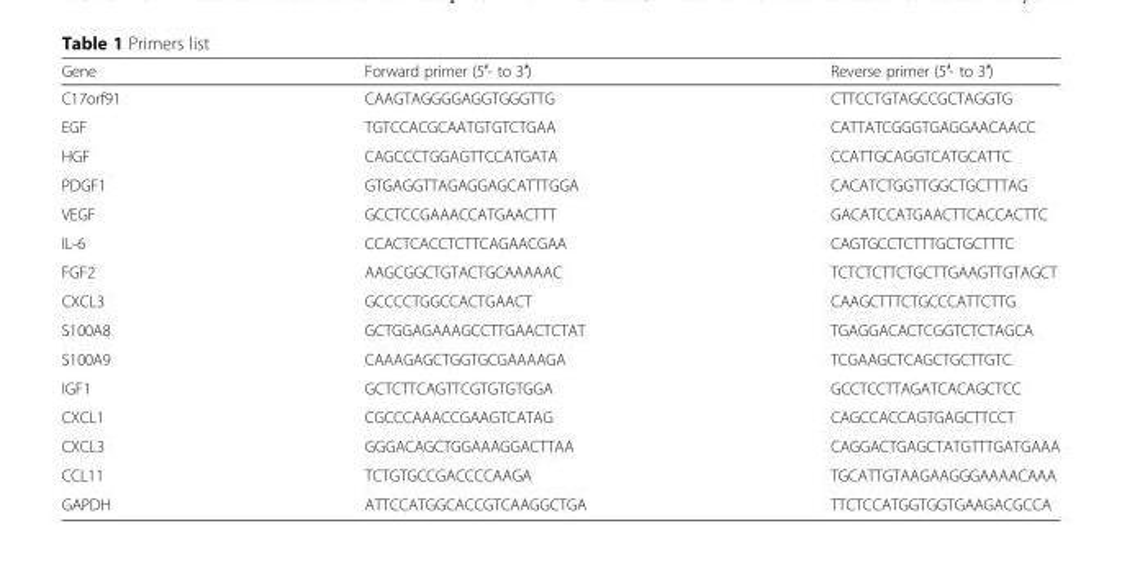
<table><thead><tr><td>Gene</td><td>Forward primer (5′- to 3′)</td><td>Reverse primer (5′- to 3′)</td></tr></thead><tbody><tr><td>C17orf91</td><td>CAAGTAGGGGAGGTGGGTTG</td><td>CTTCCTGTAGCCGCTAGGTG</td></tr><tr><td>EGF</td><td>TGTCCACGCAATGTGTCTGAA</td><td>CATTATCGGGTGAGGAACAACC</td></tr><tr><td>HGF</td><td>CAGCCCTGGAGTTCCATGATA</td><td>CCATTGCAGGTCATGCATTC</td></tr><tr><td>PDGF1</td><td>GTGAGGTTAGAGGAGCATTTGGA</td><td>CACATCTGGTTGGCTGCTTTAG</td></tr><tr><td>VEGF</td><td>GCCTCCGAAACCATGAACTTT</td><td>GACATCCATGAACTTCACCACTTC</td></tr><tr><td>IL-6</td><td>CCACTCACCTCTTCAGAACGAA</td><td>CAGTGCCTCTTTGCTGCTTTC</td></tr><tr><td>FGF2</td><td>AAGCGGCTGTACTGCAAAAAC</td><td>TCTCTCTTCTGCTTGAAGTTGTAGCT</td></tr><tr><td>CXCL3</td><td>GCCCCTGGCCACTGAACT</td><td>CAAGCTTTCTGCCCATTCTTG</td></tr><tr><td>S100A8</td><td>GCTGGAGAAAGCCTTGAACTCTAT</td><td>TGAGGACACTCGGTCTCTAGCA</td></tr><tr><td>S100A9</td><td>CAAAGAGCTGGTGCGAAAAGA</td><td>TCGAAGCTCAGCTGCTTGTC</td></tr><tr><td>IGF1</td><td>GCTCTTCAGTTCGTGTGTGGA</td><td>GCCTCCTTAGATCACAGCTCC</td></tr><tr><td>CXCL1</td><td>CGCCCAAACCGAAGTCATAG</td><td>CAGCCACCAGTGAGCTTCCT</td></tr><tr><td>CXCL3</td><td>GGGACAGCTGGAAAGGACTTAA</td><td>CAGGACTGAGCTATGTTTGATGAAA</td></tr><tr><td>CCL11</td><td>TCTGTGCCGACCCCAAGA</td><td>TGCATTGTAAGAAGGGAAAACAAA</td></tr><tr><td>GAPDH</td><td>ATTCCATGGCACCGTCAAGGCTGA</td><td>TTCTCCATGGTGGTGAAGACGCCA</td></tr></tbody></table>